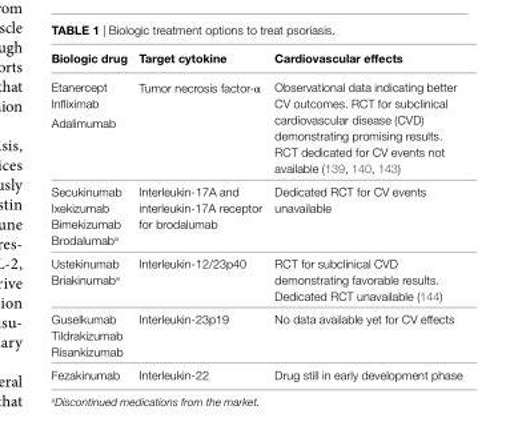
<table><thead><tr><td>Biologic drug</td><td>Target cytokine</td><td>Cardiovascular effects</td></tr></thead><tbody><tr><td>Etanercept</td><td rowspan="3">Tumor necrosis factor-α</td><td rowspan="3">Observational data indicating better CV outcomes. RCT for subclinical cardiovascular disease (CVD) demonstrating promising results. RCT dedicated for CV events not available (139, 140, 143)</td></tr><tr><td>Infliximab</td></tr><tr><td>Adalimumab</td></tr><tr><td>Secukinumab</td><td rowspan="4">Interleukin-17A and interleukin-17A receptor for brodalumab</td><td rowspan="4">Dedicated RCT for CV events unavailable</td></tr><tr><td>Ixekizumab</td></tr><tr><td>Bimekizumab</td></tr><tr><td>Brodalumab<sup>a</sup></td></tr><tr><td>Ustekinumab</td><td rowspan="2">Interleukin-12/23p40</td><td rowspan="2">RCT for subclinical CVD demonstrating favorable results. Dedicated RCT unavailable (144)</td></tr><tr><td>Briakinumab<sup>a</sup></td></tr><tr><td>Guselkumab</td><td rowspan="3">Interleukin-23p19</td><td rowspan="3">No data available yet for CV effects</td></tr><tr><td>Tildrakizumab</td></tr><tr><td>Risankizumab</td></tr><tr><td>Fezakinumab</td><td>Interleukin-22</td><td>Drug still in early development phase</td></tr></tbody></table>